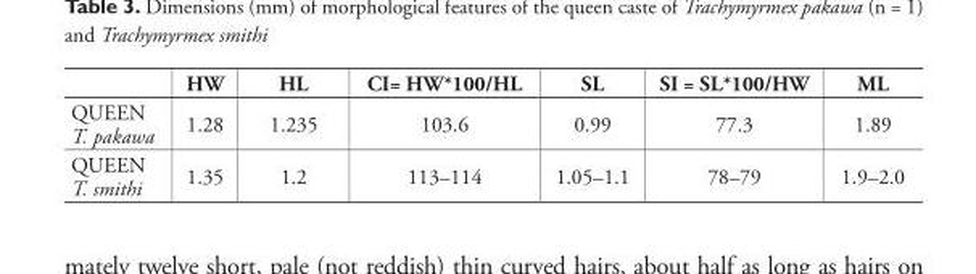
<table><thead><tr><td></td><td>HW</td><td>HL</td><td>CI= HW*100/HL</td><td>SL</td><td>SI = SL*100/HW</td><td>ML</td></tr></thead><tbody><tr><td>QUEEN T. pakawa</td><td>1.28</td><td>1.235</td><td>103.6</td><td>0.99</td><td>77.3</td><td>1.89</td></tr><tr><td>QUEEN T. smithi</td><td>1.35</td><td>1.2</td><td>113–114</td><td>1.05–1.1</td><td>78–79</td><td>1.9 –2.0</td></tr></tbody></table>